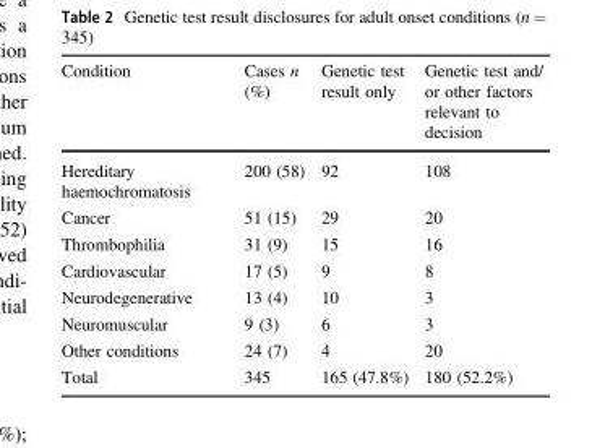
<table><thead><tr><td>Condition</td><td>Cases n (%)</td><td>Genetic test result only</td><td>Genetic test and/ or other factors relevant to decision</td></tr></thead><tbody><tr><td>Hereditary haemochromatosis</td><td>200 (58)</td><td>92</td><td>108</td></tr><tr><td>Cancer</td><td>51 (15)</td><td>29</td><td>20</td></tr><tr><td>Thrombophilia</td><td>31 (9)</td><td>15</td><td>16</td></tr><tr><td>Cardiovascular</td><td>17 (5)</td><td>9</td><td>8</td></tr><tr><td>Neurodegenerative</td><td>13 (4)</td><td>10</td><td>3</td></tr><tr><td>Neuromuscular</td><td>9 (3)</td><td>6</td><td>3</td></tr><tr><td>Other conditions</td><td>24 (7)</td><td>4</td><td>20</td></tr><tr><td>Total</td><td>345</td><td>165 (47.8%)</td><td>180 (52.2%)</td></tr></tbody></table>